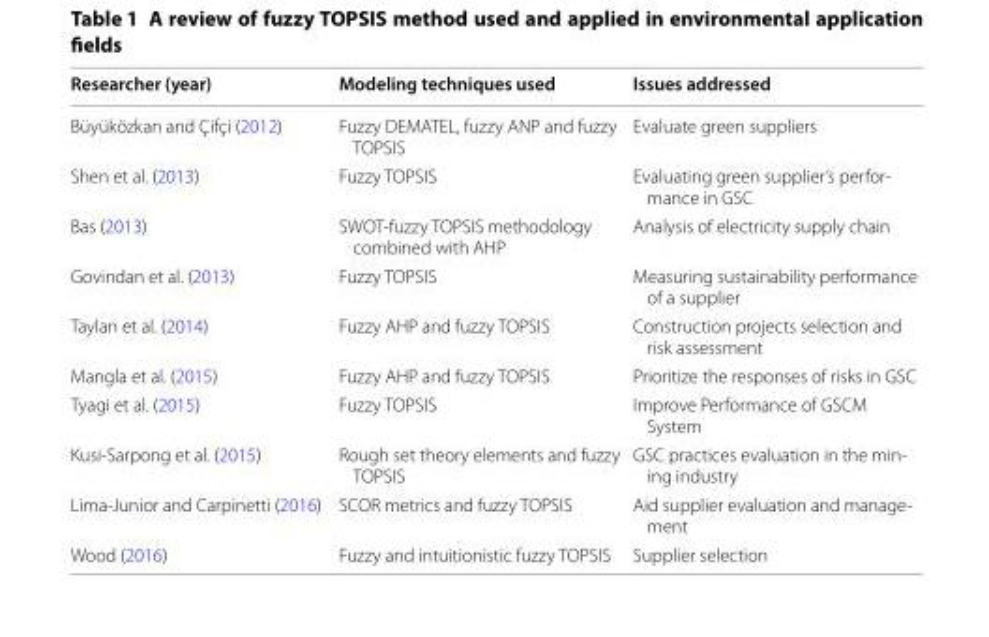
<table><thead><tr><td>Researcher (year)</td><td>Modeling techniques used</td><td>Issues addressed</td></tr></thead><tbody><tr><td>Büyüközkan and Çifçi (2012)</td><td>Fuzzy DEMATEL, fuzzy ANP and fuzzy TOPSIS</td><td>Evaluate green suppliers</td></tr><tr><td>Shen et al. (2013)</td><td>Fuzzy TOPSIS</td><td>Evaluating green supplier’s perfor- mance in GSC</td></tr><tr><td>Bas (2013)</td><td>SWOT-fuzzy TOPSIS methodology combined with AHP</td><td>Analysis of electricity supply chain</td></tr><tr><td>Govindan et al. (2013)</td><td>Fuzzy TOPSIS</td><td>Measuring sustainability performance of a supplier</td></tr><tr><td>Taylan et al. (2014)</td><td>Fuzzy AHP and fuzzy TOPSIS</td><td>Construction projects selection and risk assessment</td></tr><tr><td>Mangla et al. (2015)</td><td>Fuzzy AHP and fuzzy TOPSIS</td><td>Prioritize the responses of risks in GSC</td></tr><tr><td>Tyagi et al. (2015)</td><td>Fuzzy TOPSIS</td><td>Improve Performance of GSCM System</td></tr><tr><td>Kusi-Sarpong et al. (2015)</td><td>Rough set theory elements and fuzzy TOPSIS</td><td>GSC practices evaluation in the min- ing industry</td></tr><tr><td>Lima-Junior and Carpinetti (2016)</td><td>SCOR metrics and fuzzy TOPSIS</td><td>Aid supplier evaluation and manage- ment</td></tr><tr><td>Wood (2016)</td><td>Fuzzy and intuitionistic fuzzy TOPSIS</td><td>Supplier selection</td></tr></tbody></table>